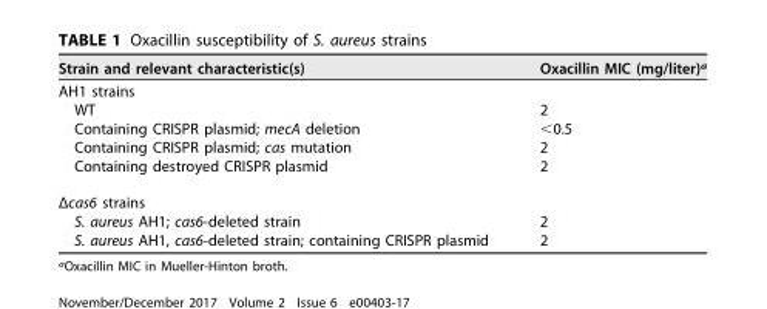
<table><thead><tr><td>Strain and relevant characteristic(s)</td><td>Oxacillin MIC (mg/liter)<sup>a</sup></td></tr></thead><tbody><tr><td colspan="2">AH1 strains</td></tr><tr><td>WT</td><td>2</td></tr><tr><td>Containing CRISPR plasmid; mecA deletion</td><td>&lt;0.5</td></tr><tr><td>Containing CRISPR plasmid; cas mutation</td><td>2</td></tr><tr><td>Containing destroyed CRISPR plasmid</td><td>2</td></tr><tr><td colspan="2">Δcas6 strains</td></tr><tr><td>S. aureus AH1; cas6-deleted strain</td><td>2</td></tr><tr><td>S. aureus AH1, cas6-deleted strain; containing CRISPR plasmid</td><td>2</td></tr></tbody></table>